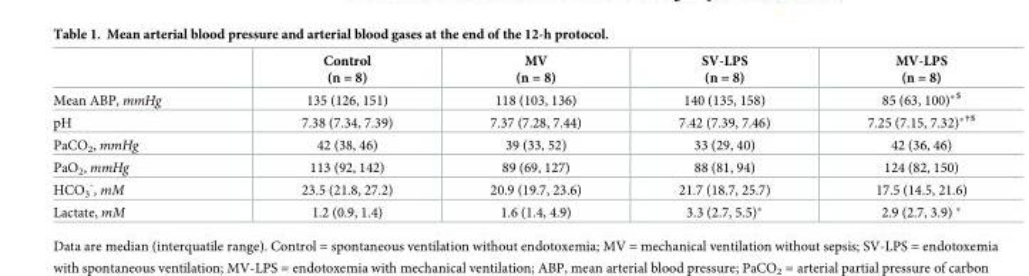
<table><thead><tr><td></td><td>Control (n = 8)</td><td>MV (n = 8)</td><td>SV-LPS (n = 8)</td><td>MV-LPS (n = 8)</td></tr></thead><tbody><tr><td>Mean ABP, mmHg</td><td>135 (126, 151)</td><td>118 (103, 136)</td><td>140 (135, 158)</td><td>85 (63, 100)*<sup>$</sup></td></tr><tr><td>pH</td><td>7.38 (7.34, 7.39)</td><td>7.37 (7.28, 7.44)</td><td>7.42 (7.39, 7.46)</td><td>7.25 (7.15, 7.32)*<sup>†$</sup></td></tr><tr><td>PaCO<sub>2</sub>, mmHg</td><td>42 (38, 46)</td><td>39 (33, 52)</td><td>33 (29, 40)</td><td>42 (36, 46)</td></tr><tr><td>PaO<sub>2</sub>, mmHg</td><td>113 (92, 142)</td><td>89 (69, 127)</td><td>88 (81, 94)</td><td>124 (82, 150)</td></tr><tr><td>HCO<sub>3</sub> <sup>-</sup>, mM</td><td>23.5 (21.8, 27.2)</td><td>20.9 (19.7, 23.6)</td><td>21.7 (18.7, 25.7)</td><td>17.5 (14.5, 21.6)</td></tr><tr><td>Lactate, mM</td><td>1.2 (0.9, 1.4)</td><td>1.6 (1.4, 4.9)</td><td>3.3 (2.7, 5.5)*</td><td>2.9 (2.7, 3.9) *</td></tr></tbody></table>